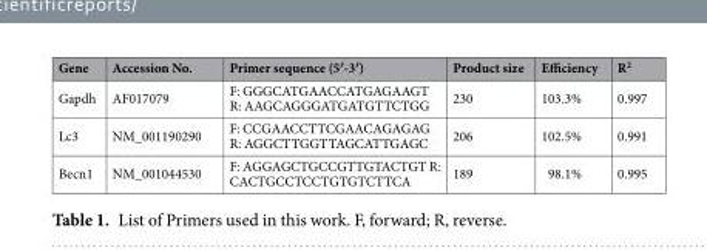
<table><thead><tr><td>Gene</td><td>Accession No.</td><td>Primer sequence (5′-3′)</td><td>Product size</td><td>Efficiency</td><td>R<sup>2</sup></td></tr></thead><tbody><tr><td>Gapdh</td><td>AF017079</td><td>F: GGGCATGAACCATGAGAAGT R: AAGCAGGGATGATGTTCTGG</td><td>230</td><td>103.3%</td><td>0.997</td></tr><tr><td>Lc3</td><td>NM_001190290</td><td>F: CCGAACCTTCGAACAGAGAG R: AGGCTTGGTTAGCATTGAGC</td><td>206</td><td>102.5%</td><td>0.991</td></tr><tr><td>Becn1</td><td>NM_001044530</td><td>F: AGGAGCTGCCGTTGTACTGT R: CACTGCCTCCTGTGTCTTCA</td><td>189</td><td>98.1%</td><td>0.995</td></tr></tbody></table>